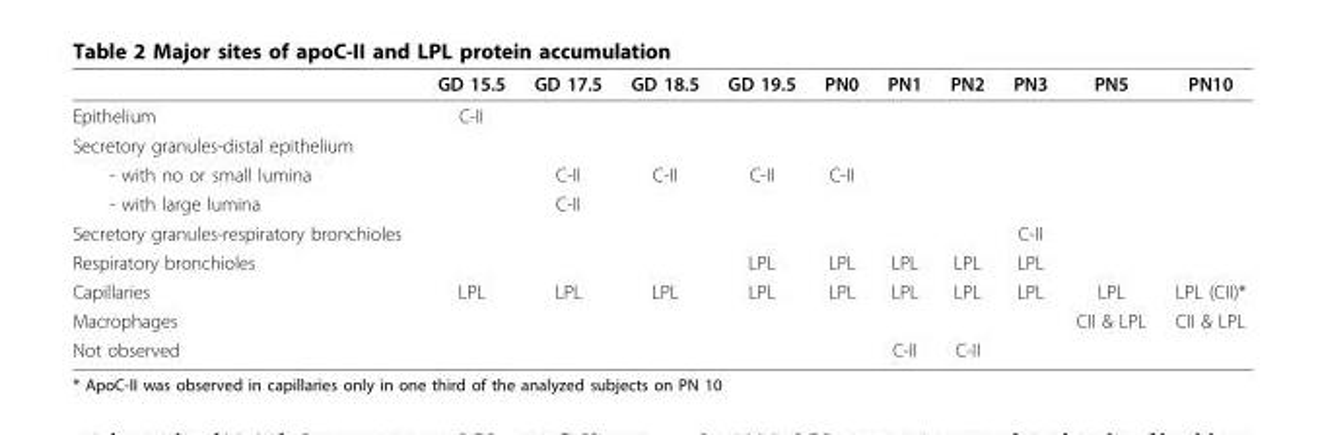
<table><thead><tr><td></td><td>GD 15.5</td><td>GD 17.5</td><td>GD 18.5</td><td>GD 19.5</td><td>PN0</td><td>PN1</td><td>PN2</td><td>PN3</td><td>PN5</td><td>PN10</td></tr></thead><tbody><tr><td>Epithelium</td><td>C-II</td><td></td><td></td><td></td><td></td><td></td><td></td><td></td><td></td><td></td></tr><tr><td colspan="11">Secretory granules-distal epithelium</td></tr><tr><td>- with no or small lumina</td><td></td><td>C-II</td><td>C-II</td><td>C-II</td><td>C-II</td><td></td><td></td><td></td><td></td><td></td></tr><tr><td>- with large lumina</td><td></td><td>C-II</td><td></td><td></td><td></td><td></td><td></td><td></td><td></td><td></td></tr><tr><td>Secretory granules-respiratory bronchioles</td><td></td><td></td><td></td><td></td><td></td><td></td><td></td><td>C-II</td><td></td><td></td></tr><tr><td>Respiratory bronchioles</td><td></td><td></td><td></td><td>LPL</td><td>LPL</td><td>LPL</td><td>LPL</td><td>LPL</td><td></td><td></td></tr><tr><td>Capillaries</td><td>LPL</td><td>LPL</td><td>LPL</td><td>LPL</td><td>LPL</td><td>LPL</td><td>LPL</td><td>LPL</td><td>LPL</td><td>LPL (CII)*</td></tr><tr><td>Macrophages</td><td></td><td></td><td></td><td></td><td></td><td></td><td></td><td></td><td>CII &amp; LPL</td><td>CII &amp; LPL</td></tr><tr><td>Not observed</td><td></td><td></td><td></td><td></td><td></td><td>C-II</td><td>C-II</td><td></td><td></td><td></td></tr></tbody></table>